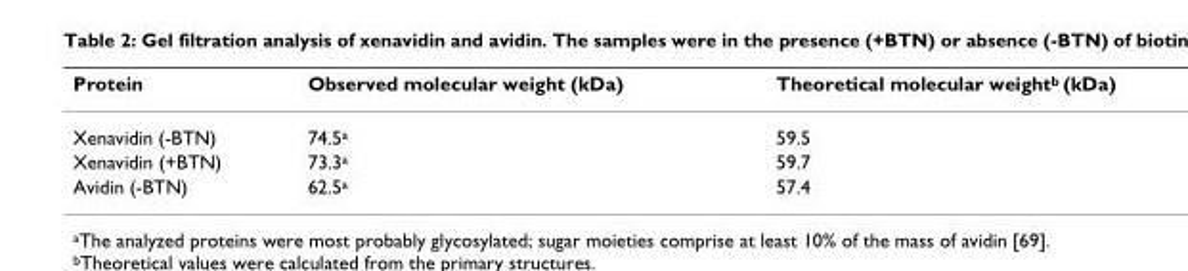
<table><thead><tr><td>Protein</td><td>Observed molecular weight (kDa)</td><td>Theoretical molecular weightb (kDa)</td></tr></thead><tbody><tr><td>Xenavidin (-BTN)</td><td>74.5<sup>a</sup></td><td>59.5</td></tr><tr><td>Xenavidin (+BTN)</td><td>73.3<sup>a</sup></td><td>59.7</td></tr><tr><td>Avidin (-BTN)</td><td>62.5<sup>a</sup></td><td>57.4</td></tr></tbody></table>